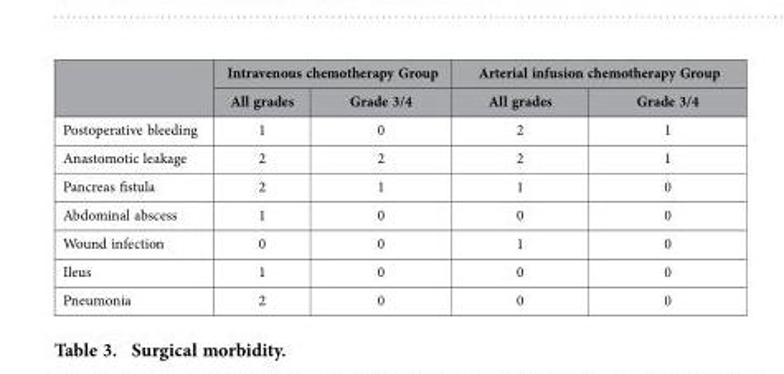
<table><thead><tr><td rowspan="2"></td><td colspan="2">Intravenous chemotherapy Group</td><td colspan="2">Arterial infusion chemotherapy Group</td></tr><tr><td>All grades</td><td>Grade 3/4</td><td>All grades</td><td>Grade 3/4</td></tr></thead><tbody><tr><td>Postoperative bleeding</td><td>1</td><td>0</td><td>2</td><td>1</td></tr><tr><td>Anastomotic leakage</td><td>2</td><td>2</td><td>2</td><td>1</td></tr><tr><td>Pancreas fistula</td><td>2</td><td>1</td><td>1</td><td>0</td></tr><tr><td>Abdominal abscess</td><td>1</td><td>0</td><td>0</td><td>0</td></tr><tr><td>Wound infection</td><td>0</td><td>0</td><td>1</td><td>0</td></tr><tr><td>Ileus</td><td>1</td><td>0</td><td>0</td><td>0</td></tr><tr><td>Pneumonia</td><td>2</td><td>0</td><td>0</td><td>0</td></tr></tbody></table>